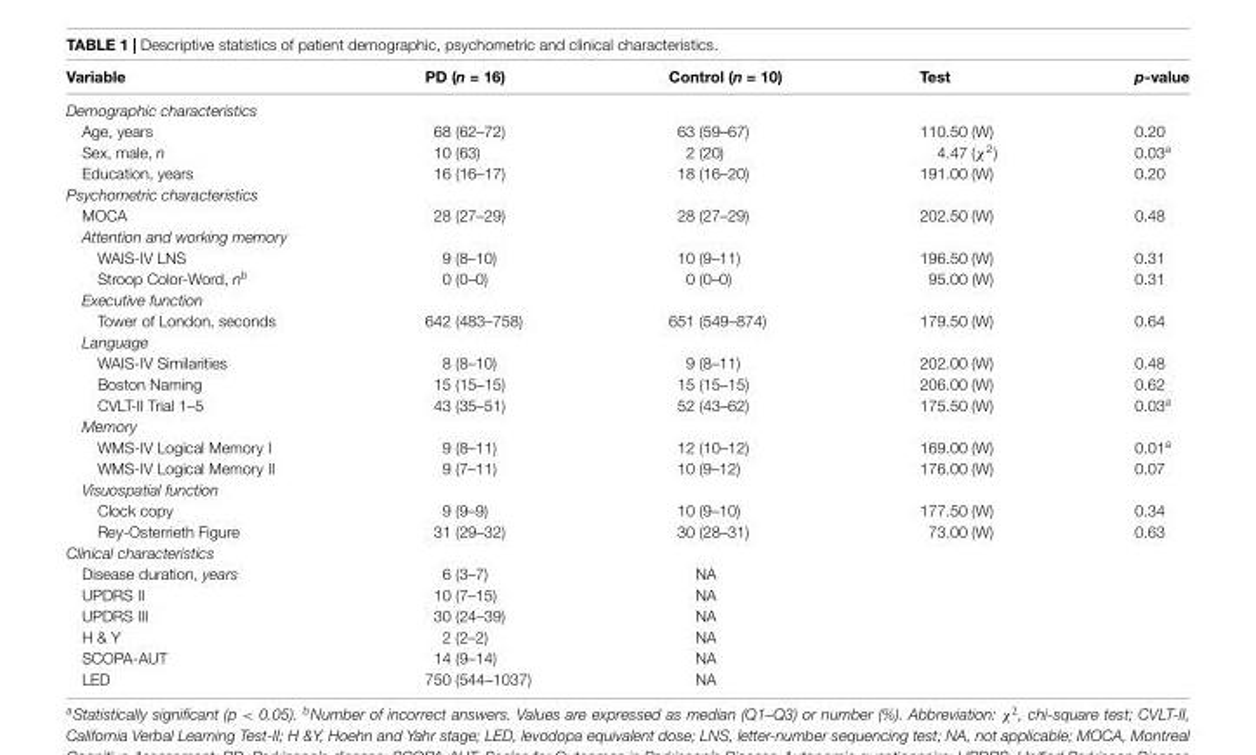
<table><thead><tr><td>Variable</td><td>PD (n = 16)</td><td>Control (n = 10)</td><td>Test</td><td>p-value</td></tr></thead><tbody><tr><td colspan="5">Demographic characteristics</td></tr><tr><td>Age, years</td><td>68 (62–72)</td><td>63 (59–67)</td><td>110.50 (W)</td><td>0.20</td></tr><tr><td>Sex, male, n</td><td>10 (63)</td><td>2 (20)</td><td>4.47 (χ<sup>2</sup>)</td><td>0.03<sup>a</sup></td></tr><tr><td>Education, years</td><td>16 (16–17)</td><td>18 (16–20)</td><td>191.00 (W)</td><td>0.20</td></tr><tr><td colspan="5">Psychometric characteristics</td></tr><tr><td>MOCA</td><td>28 (27–29)</td><td>28 (27–29)</td><td>202.50 (W)</td><td>0.48</td></tr><tr><td colspan="5">Attention and working memory</td></tr><tr><td>WAIS-IV LNS</td><td>9 (8–10)</td><td>10 (9–11)</td><td>196.50 (W)</td><td>0.31</td></tr><tr><td>Stroop Color-Word, n<sup>b</sup></td><td>0 (0–0)</td><td>0 (0–0)</td><td>95.00 (W)</td><td>0.31</td></tr><tr><td colspan="5">Executive function</td></tr><tr><td>Tower of London, seconds</td><td>642 (483–758)</td><td>651 (549–874)</td><td>179.50 (W)</td><td>0.64</td></tr><tr><td colspan="5">Language</td></tr><tr><td>WAIS-IV Similarities</td><td>8 (8–10)</td><td>9 (8–11)</td><td>202.00 (W)</td><td>0.48</td></tr><tr><td>Boston Naming</td><td>15 (15–15)</td><td>15 (15–15)</td><td>206.00 (W)</td><td>0.62</td></tr><tr><td>CVLT-II Trial 1–5</td><td>43 (35–51)</td><td>52 (43–62)</td><td>175.50 (W)</td><td>0.03<sup>a</sup></td></tr><tr><td colspan="5">Memory</td></tr><tr><td>WMS-IV Logical Memory I</td><td>9 (8–11)</td><td>12 (10–12)</td><td>169.00 (W)</td><td>0.01<sup>a</sup></td></tr><tr><td>WMS-IV Logical Memory II</td><td>9 (7–11)</td><td>10 (9–12)</td><td>176.00 (W)</td><td>0.07</td></tr><tr><td colspan="5">Visuospatial function</td></tr><tr><td>Clock copy</td><td>9 (9–9)</td><td>10 (9–10)</td><td>177.50 (W)</td><td>0.34</td></tr><tr><td>Rey-Osterrieth Figure</td><td>31 (29–32)</td><td>30 (28–31)</td><td>73.00 (W)</td><td>0.63</td></tr><tr><td colspan="5">Clinical characteristics</td></tr><tr><td>Disease duration, years</td><td>6 (3–7)</td><td>NA</td><td></td><td></td></tr><tr><td>UPDRS II</td><td>10 (7–15)</td><td>NA</td><td></td><td></td></tr><tr><td>UPDRS III</td><td>30 (24–39)</td><td>NA</td><td></td><td></td></tr><tr><td>H &amp; Y</td><td>2 (2–2)</td><td>NA</td><td></td><td></td></tr><tr><td>SCOPA-AUT</td><td>14 (9–14)</td><td>NA</td><td></td><td></td></tr><tr><td>LED</td><td>750 (544–1037)</td><td>NA</td><td></td><td></td></tr></tbody></table>